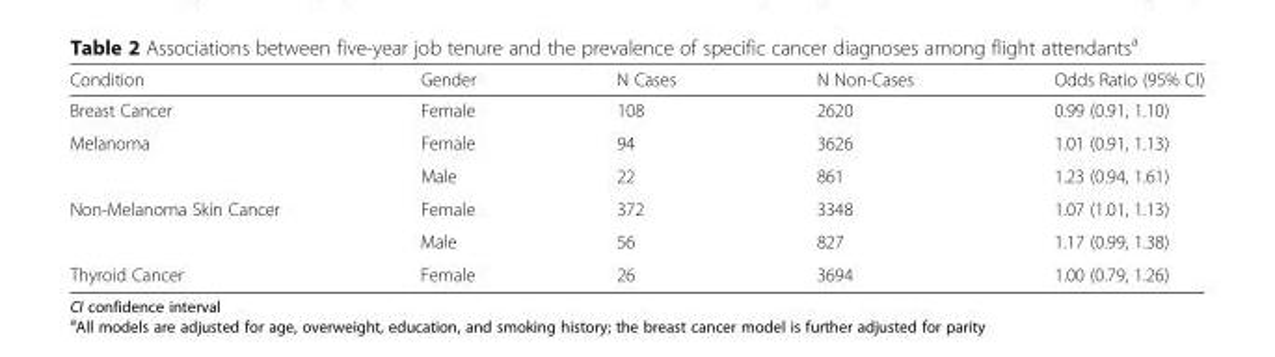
<table><thead><tr><td>Condition</td><td>Gender</td><td>N Cases</td><td>N Non-Cases</td><td>Odds Ratio (95% CI)</td></tr></thead><tbody><tr><td>Breast Cancer</td><td>Female</td><td>108</td><td>2620</td><td>0.99 (0.91, 1.10)</td></tr><tr><td rowspan="2">Melanoma</td><td>Female</td><td>94</td><td>3626</td><td>1.01 (0.91, 1.13)</td></tr><tr><td>Male</td><td>22</td><td>861</td><td>1.23 (0.94, 1.61)</td></tr><tr><td rowspan="2">Non-Melanoma Skin Cancer</td><td>Female</td><td>372</td><td>3348</td><td>1.07 (1.01, 1.13)</td></tr><tr><td>Male</td><td>56</td><td>827</td><td>1.17 (0.99, 1.38)</td></tr><tr><td>Thyroid Cancer</td><td>Female</td><td>26</td><td>3694</td><td>1.00 (0.79, 1.26)</td></tr></tbody></table>